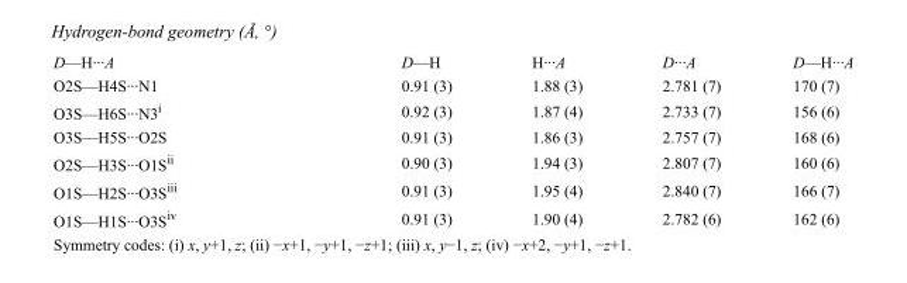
<table><tbody><tr><td>D—H···A</td><td>D—H</td><td>H···A</td><td>D···A</td><td>D—H···A</td></tr><tr><td>O2S—H4S···N1</td><td>0.91 (3)</td><td>1.88 (3)</td><td>2.781 (7)</td><td>170 (7)</td></tr><tr><td>O3S—H6S···N3<sup>i</sup></td><td>0.92 (3)</td><td>1.87 (4)</td><td>2.733 (7)</td><td>156 (6)</td></tr><tr><td>O3S—H5S···O2S</td><td>0.91 (3)</td><td>1.86 (3)</td><td>2.757 (7)</td><td>168 (6)</td></tr><tr><td>O2S—H3S···O1S<sup>ii</sup></td><td>0.90 (3)</td><td>1.94 (3)</td><td>2.807 (7)</td><td>160 (6)</td></tr><tr><td>O1S—H2S···O3S<sup>iii</sup></td><td>0.91 (3)</td><td>1.95 (4)</td><td>2.840 (7)</td><td>166 (7)</td></tr><tr><td>O1S—H1S···O3S<sup>iv</sup></td><td>0.91 (3)</td><td>1.90 (4)</td><td>2.782 (6)</td><td>162 (6)</td></tr></tbody></table>